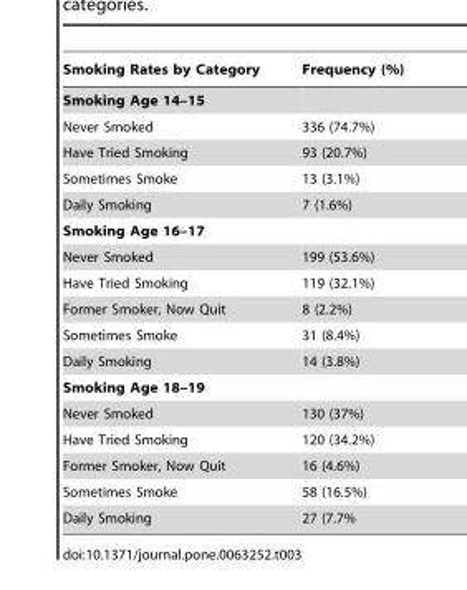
<table><thead><tr><td>Smoking Rates by Category</td><td>Frequency (%)</td></tr></thead><tbody><tr><td colspan="2">Smoking Age 14–15</td></tr><tr><td>Never Smoked</td><td>336 (74.7%)</td></tr><tr><td>Have Tried Smoking</td><td>93 (20.7%)</td></tr><tr><td>Sometimes Smoke</td><td>13 (3.1%)</td></tr><tr><td>Daily Smoking</td><td>7 (1.6%)</td></tr><tr><td colspan="2">Smoking Age 16–17</td></tr><tr><td>Never Smoked</td><td>199 (53.6%)</td></tr><tr><td>Have Tried Smoking</td><td>119 (32.1%)</td></tr><tr><td>Former Smoker, Now Quit</td><td>8 (2.2%)</td></tr><tr><td>Sometimes Smoke</td><td>31 (8.4%)</td></tr><tr><td>Daily Smoking</td><td>14 (3.8%)</td></tr><tr><td colspan="2">Smoking Age 18–19</td></tr><tr><td>Never Smoked</td><td>130 (37%)</td></tr><tr><td>Have Tried Smoking</td><td>120 (34.2%)</td></tr><tr><td>Former Smoker, Now Quit</td><td>16 (4.6%)</td></tr><tr><td>Sometimes Smoke</td><td>58 (16.5%)</td></tr><tr><td>Daily Smoking</td><td>27 (7.7%</td></tr></tbody></table>